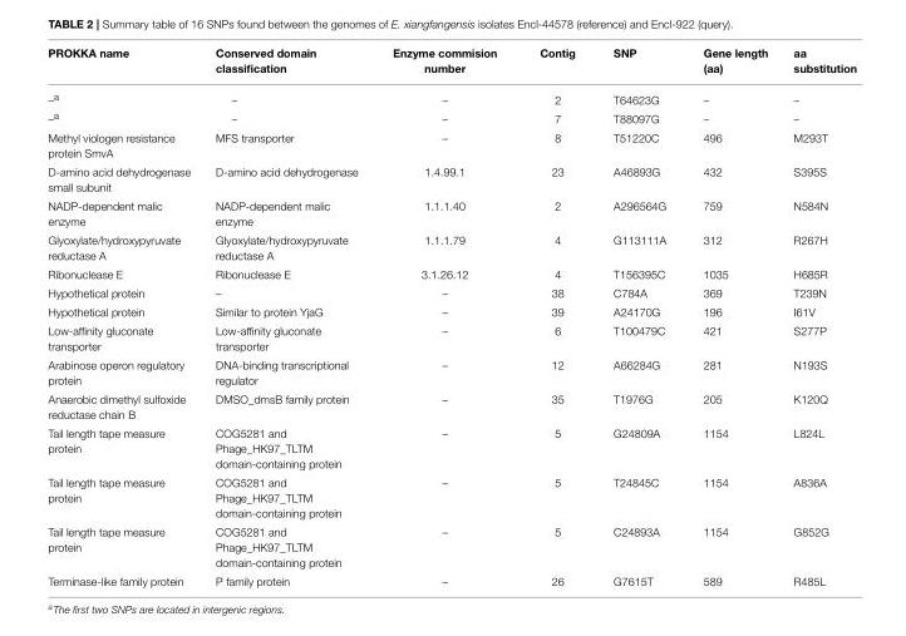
<table><thead><tr><td>PROKKA name</td><td>Conserved domain classification</td><td>Enzyme commision number</td><td>Contig</td><td>SNP</td><td>Gene length (aa)</td><td>aa substitution</td></tr></thead><tbody><tr><td>–<sup>a</sup></td><td>–</td><td>–</td><td>2</td><td>T64623G</td><td>–</td><td>–</td></tr><tr><td>–<sup>a</sup></td><td>–</td><td>–</td><td>7</td><td>T88097G</td><td>–</td><td>–</td></tr><tr><td>Methyl viologen resistance protein SmvA</td><td>MFS transporter</td><td>–</td><td>8</td><td>T51220C</td><td>496</td><td>M293T</td></tr><tr><td>D-amino acid dehydrogenase small subunit</td><td>D-amino acid dehydrogenase</td><td>1.4.99.1</td><td>23</td><td>A46893G</td><td>432</td><td>S395S</td></tr><tr><td>NADP-dependent malic enzyme</td><td>NADP-dependent malic enzyme</td><td>1.1.1.40</td><td>2</td><td>A296564G</td><td>759</td><td>N584N</td></tr><tr><td>Glyoxylate/hydroxypyruvate reductase A</td><td>Glyoxylate/hydroxypyruvate reductase A</td><td>1.1.1.79</td><td>4</td><td>G113111A</td><td>312</td><td>R267H</td></tr><tr><td>Ribonuclease E</td><td>Ribonuclease E</td><td>3.1.26.12</td><td>4</td><td>T156395C</td><td>1035</td><td>H685R</td></tr><tr><td>Hypothetical protein</td><td>–</td><td>–</td><td>38</td><td>C784A</td><td>369</td><td>T239N</td></tr><tr><td>Hypothetical protein</td><td>Similar to protein YjaG</td><td>–</td><td>39</td><td>A24170G</td><td>196</td><td>I61V</td></tr><tr><td>Low-affinity gluconate transporter</td><td>Low-affinity gluconate transporter</td><td>–</td><td>6</td><td>T100479C</td><td>421</td><td>S277P</td></tr><tr><td>Arabinose operon regulatory protein</td><td>DNA-binding transcriptional regulator</td><td>–</td><td>12</td><td>A66284G</td><td>281</td><td>N193S</td></tr><tr><td>Anaerobic dimethyl sulfoxide reductase chain B</td><td>DMSO_dmsB family protein</td><td>–</td><td>35</td><td>T1976G</td><td>205</td><td>K120Q</td></tr><tr><td>Tail length tape measure protein</td><td>COG5281 and Phage_HK97_TLTM domain-containing protein</td><td>–</td><td>5</td><td>G24809A</td><td>1154</td><td>L824L</td></tr><tr><td>Tail length tape measure protein</td><td>COG5281 and Phage_HK97_TLTM domain-containing protein</td><td>–</td><td>5</td><td>T24845C</td><td>1154</td><td>A836A</td></tr><tr><td>Tail length tape measure protein</td><td>COG5281 and Phage_HK97_TLTM domain-containing protein</td><td>–</td><td>5</td><td>C24893A</td><td>1154</td><td>G852G</td></tr><tr><td>Terminase-like family protein</td><td>P family protein</td><td>–</td><td>26</td><td>G7615T</td><td>589</td><td>R485L</td></tr></tbody></table>